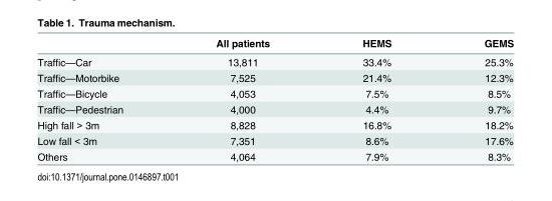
<table><thead><tr><td></td><td>All patients</td><td>HEMS</td><td>GEMS</td></tr></thead><tbody><tr><td>Traffic—Car</td><td>13,811</td><td>33.4%</td><td>25.3%</td></tr><tr><td>Traffic—Motorbike</td><td>7,525</td><td>21.4%</td><td>12.3%</td></tr><tr><td>Traffic—Bicycle</td><td>4,053</td><td>7.5%</td><td>8.5%</td></tr><tr><td>Traffic—Pedestrian</td><td>4,000</td><td>4.4%</td><td>9.7%</td></tr><tr><td>High fall &gt; 3m</td><td>8,828</td><td>16.8%</td><td>18.2%</td></tr><tr><td>Low fall &lt; 3m</td><td>7,351</td><td>8.6%</td><td>17.6%</td></tr><tr><td>Others</td><td>4,064</td><td>7.9%</td><td>8.3%</td></tr></tbody></table>